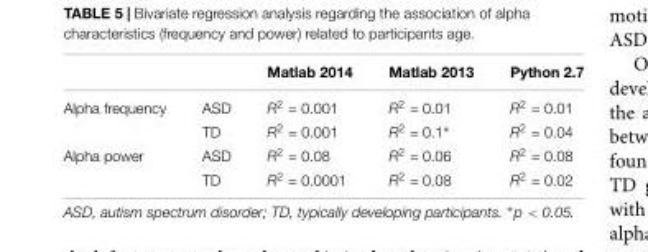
<table><thead><tr><td></td><td></td><td>Matlab 2014</td><td>Matlab 2013</td><td>Python 2.7</td></tr></thead><tbody><tr><td rowspan="2">Alpha frequency</td><td>ASD</td><td>R<sup>2</sup> = 0.001</td><td>R<sup>2</sup> = 0.01</td><td>R<sup>2</sup> = 0.01</td></tr><tr><td>TD</td><td>R<sup>2</sup> = 0.001</td><td>R<sup>2</sup> = 0.1∗</td><td>R<sup>2</sup> = 0.04</td></tr><tr><td rowspan="2">Alpha power</td><td>ASD</td><td>R<sup>2</sup> = 0.08</td><td>R<sup>2</sup> = 0.06</td><td>R<sup>2</sup> = 0.08</td></tr><tr><td>TD</td><td>R<sup>2</sup> = 0.0001</td><td>R<sup>2</sup> = 0.08</td><td>R<sup>2</sup> = 0.02</td></tr></tbody></table>